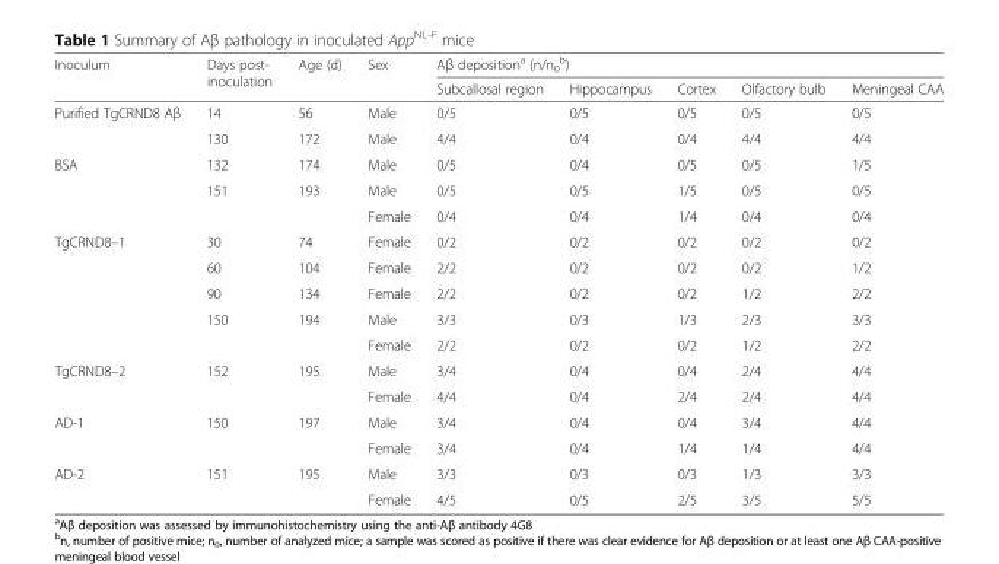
<table><thead><tr><td rowspan="2">Inoculum</td><td rowspan="2">Days post- inoculation</td><td rowspan="2">Age (d)</td><td rowspan="2">Sex</td><td colspan="5">Aβ deposition<sup>a</sup> (n/n<sub>0</sub> <sup>b</sup>)</td></tr><tr><td>Subcallosal region</td><td>Hippocampus</td><td>Cortex</td><td>Olfactory bulb</td><td>Meningeal CAA</td></tr></thead><tbody><tr><td rowspan="2">Purified TgCRND8 Aβ</td><td>14</td><td>56</td><td>Male</td><td>0/5</td><td>0/5</td><td>0/5</td><td>0/5</td><td>0/5</td></tr><tr><td>130</td><td>172</td><td>Male</td><td>4/4</td><td>0/4</td><td>0/4</td><td>4/4</td><td>4/4</td></tr><tr><td rowspan="3">BSA</td><td>132</td><td>174</td><td>Male</td><td>0/5</td><td>0/4</td><td>0/5</td><td>0/5</td><td>1/5</td></tr><tr><td>151</td><td>193</td><td>Male</td><td>0/5</td><td>0/5</td><td>1/5</td><td>0/5</td><td>0/5</td></tr><tr><td></td><td></td><td>Female</td><td>0/4</td><td>0/4</td><td>1/4</td><td>0/4</td><td>0/4</td></tr><tr><td rowspan="5">TgCRND8–1</td><td>30</td><td>74</td><td>Female</td><td>0/2</td><td>0/2</td><td>0/2</td><td>0/2</td><td>0/2</td></tr><tr><td>60</td><td>104</td><td>Female</td><td>2/2</td><td>0/2</td><td>0/2</td><td>0/2</td><td>1/2</td></tr><tr><td>90</td><td>134</td><td>Female</td><td>2/2</td><td>0/2</td><td>0/2</td><td>1/2</td><td>2/2</td></tr><tr><td>150</td><td>194</td><td>Male</td><td>3/3</td><td>0/3</td><td>1/3</td><td>2/3</td><td>3/3</td></tr><tr><td></td><td></td><td>Female</td><td>2/2</td><td>0/2</td><td>0/2</td><td>1/2</td><td>2/2</td></tr><tr><td rowspan="2">TgCRND8–2</td><td>152</td><td>195</td><td>Male</td><td>3/4</td><td>0/4</td><td>0/4</td><td>2/4</td><td>4/4</td></tr><tr><td></td><td></td><td>Female</td><td>4/4</td><td>0/4</td><td>2/4</td><td>2/4</td><td>4/4</td></tr><tr><td rowspan="2">AD-1</td><td>150</td><td>197</td><td>Male</td><td>3/4</td><td>0/4</td><td>0/4</td><td>3/4</td><td>4/4</td></tr><tr><td></td><td></td><td>Female</td><td>3/4</td><td>0/4</td><td>1/4</td><td>1/4</td><td>4/4</td></tr><tr><td rowspan="2">AD-2</td><td>151</td><td>195</td><td>Male</td><td>3/3</td><td>0/3</td><td>0/3</td><td>1/3</td><td>3/3</td></tr><tr><td></td><td></td><td>Female</td><td>4/5</td><td>0/5</td><td>2/5</td><td>3/5</td><td>5/5</td></tr></tbody></table>